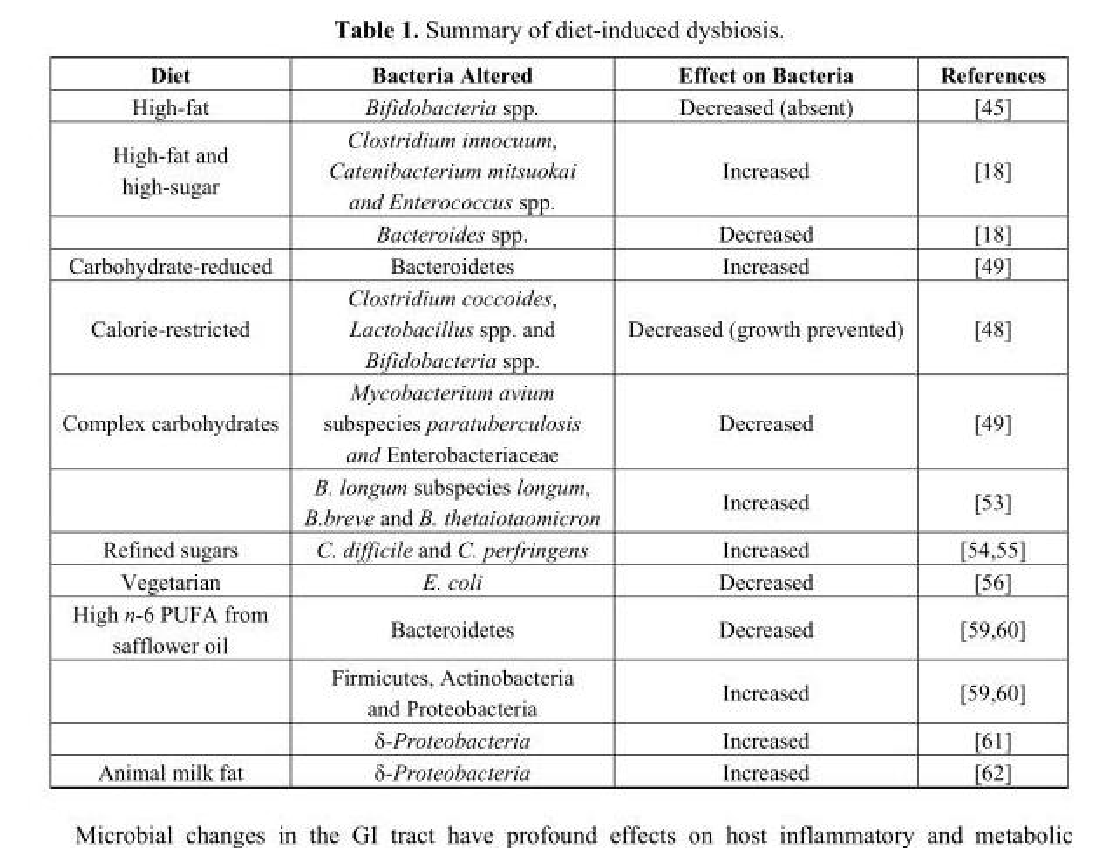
<table><thead><tr><td>Diet</td><td>Bacteria Altered</td><td>Effect on Bacteria</td><td>References</td></tr></thead><tbody><tr><td>High-fat</td><td>Bifidobacteria spp.</td><td>Decreased (absent)</td><td>[45]</td></tr><tr><td rowspan="2">High-fat and high-sugar</td><td>Clostridium innocuum, Catenibacterium mitsuokai and Enterococcus spp.</td><td>Increased</td><td>[18]</td></tr><tr><td>Bacteroides spp.</td><td>Decreased</td><td>[18]</td></tr><tr><td>Carbohydrate-reduced</td><td>Bacteroidetes</td><td>Increased</td><td>[49]</td></tr><tr><td>Calorie-restricted</td><td>Clostridium coccoides, Lactobacillus spp. and Bifidobacteria spp.</td><td>Decreased (growth prevented)</td><td>[48]</td></tr><tr><td rowspan="2">Complex carbohydrates</td><td>Mycobacterium avium subspecies paratuberculosis and Enterobacteriaceae</td><td>Decreased</td><td>[49]</td></tr><tr><td>B. longum subspecies longum, B.breve and B. thetaiotaomicron</td><td>Increased</td><td>[53]</td></tr><tr><td>Refined sugars</td><td>C. difficile and C. perfringens</td><td>Increased</td><td>[54,55]</td></tr><tr><td>Vegetarian</td><td>E. coli</td><td>Decreased</td><td>[56]</td></tr><tr><td rowspan="3">High n-6 PUFA from safflower oil</td><td>Bacteroidetes</td><td>Decreased</td><td>[59,60]</td></tr><tr><td>Firmicutes, Actinobacteria and Proteobacteria</td><td>Increased</td><td>[59,60]</td></tr><tr><td>δ-Proteobacteria</td><td>Increased</td><td>[61]</td></tr><tr><td>Animal milk fat</td><td>δ-Proteobacteria</td><td>Increased</td><td>[62]</td></tr></tbody></table>